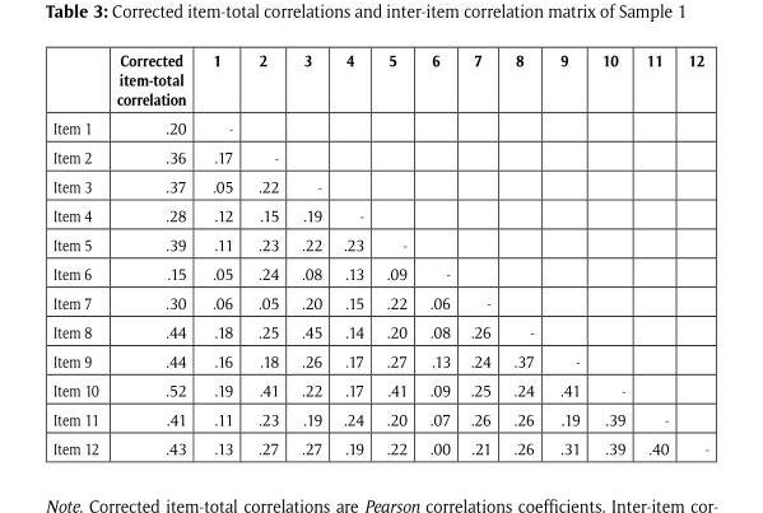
<table><thead><tr><td></td><td>Corrected item-total correlation</td><td>1</td><td>2</td><td>3</td><td>4</td><td>5</td><td>6</td><td>7</td><td>8</td><td>9</td><td>10</td><td>11</td><td>12</td></tr></thead><tbody><tr><td>Item 1</td><td>.20</td><td>-</td><td></td><td></td><td></td><td></td><td></td><td></td><td></td><td></td><td></td><td></td><td></td></tr><tr><td>Item 2</td><td>.36</td><td>.17</td><td>-</td><td></td><td></td><td></td><td></td><td></td><td></td><td></td><td></td><td></td><td></td></tr><tr><td>Item 3</td><td>.37</td><td>.05</td><td>.22</td><td>-</td><td></td><td></td><td></td><td></td><td></td><td></td><td></td><td></td><td></td></tr><tr><td>Item 4</td><td>.28</td><td>.12</td><td>.15</td><td>.19</td><td>-</td><td></td><td></td><td></td><td></td><td></td><td></td><td></td><td></td></tr><tr><td>Item 5</td><td>.39</td><td>.11</td><td>.23</td><td>.22</td><td>.23</td><td>-</td><td></td><td></td><td></td><td></td><td></td><td></td><td></td></tr><tr><td>Item 6</td><td>.15</td><td>.05</td><td>.24</td><td>.08</td><td>.13</td><td>.09</td><td>-</td><td></td><td></td><td></td><td></td><td></td><td></td></tr><tr><td>Item 7</td><td>.30</td><td>.06</td><td>.05</td><td>.20</td><td>.15</td><td>.22</td><td>.06</td><td>-</td><td></td><td></td><td></td><td></td><td></td></tr><tr><td>Item 8</td><td>.44</td><td>.18</td><td>.25</td><td>.45</td><td>.14</td><td>.20</td><td>.08</td><td>.26</td><td>-</td><td></td><td></td><td></td><td></td></tr><tr><td>Item 9</td><td>.44</td><td>.16</td><td>.18</td><td>.26</td><td>.17</td><td>.27</td><td>.13</td><td>.24</td><td>.37</td><td>-</td><td></td><td></td><td></td></tr><tr><td>Item 10</td><td>.52</td><td>.19</td><td>.41</td><td>.22</td><td>.17</td><td>.41</td><td>.09</td><td>.25</td><td>.24</td><td>.41</td><td>-</td><td></td><td></td></tr><tr><td>Item 11</td><td>.41</td><td>.11</td><td>.23</td><td>.19</td><td>.24</td><td>.20</td><td>.07</td><td>.26</td><td>.26</td><td>.19</td><td>.39</td><td>-</td><td></td></tr><tr><td>Item 12</td><td>.43</td><td>.13</td><td>.27</td><td>.27</td><td>.19</td><td>.22</td><td>.00</td><td>.21</td><td>.26</td><td>.31</td><td>.39</td><td>.40</td><td>-</td></tr></tbody></table>